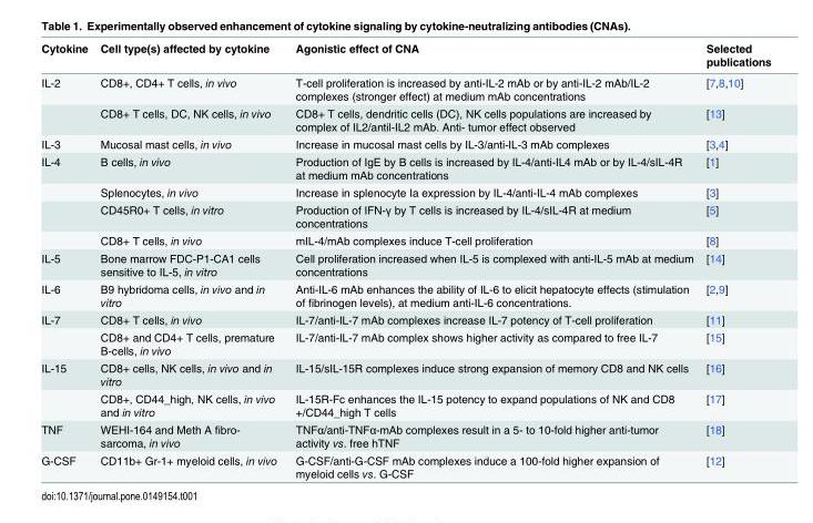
<table><thead><tr><td>Cytokine</td><td>Cell type(s) affected by cytokine</td><td>Agonistic effect of CNA</td><td>Selected publications</td></tr></thead><tbody><tr><td rowspan="2">IL-2</td><td>CD8+, CD4+ T cells, in vivo</td><td>T-cell proliferation is increased by anti-IL-2 mAb or by anti-IL-2 mAb/IL-2 complexes (stronger effect) at medium mAb concentrations</td><td>[7,8,10]</td></tr><tr><td>CD8+ T cells, DC, NK cells, in vivo</td><td>CD8+ T cells, dendritic cells (DC), NK cells populations are increased by complex of IL2/antil-IL2 mAb. Anti- tumor effect observed</td><td>[13]</td></tr><tr><td>IL-3</td><td>Mucosal mast cells, in vivo</td><td>Increase in mucosal mast cells by IL-3/anti-IL-3 mAb complexes</td><td>[3,4]</td></tr><tr><td rowspan="4">IL-4</td><td>B cells, in vivo</td><td>Production of IgE by B cells is increased by IL-4/anti-IL4 mAb or by IL-4/sIL-4R at medium mAb concentrations</td><td>[1]</td></tr><tr><td>Splenocytes, in vivo</td><td>Increase in splenocyte Ia expression by IL-4/anti-IL-4 mAb complexes</td><td>[3]</td></tr><tr><td>CD45R0+ T cells, in vitro</td><td>Production of IFN-γ by T cells is increased by IL-4/sIL-4R at medium concentrations</td><td>[5]</td></tr><tr><td>CD8+ T cells, in vivo</td><td>mIL-4/mAb complexes induce T-cell proliferation</td><td>[8]</td></tr><tr><td>IL-5</td><td>Bone marrow FDC-P1-CA1 cells sensitive to IL-5, in vitro</td><td>Cell proliferation increased when IL-5 is complexed with anti-IL-5 mAb at medium concentrations</td><td>[14]</td></tr><tr><td>IL-6</td><td>B9 hybridoma cells, in vivo and in vitro</td><td>Anti-IL-6 mAb enhances the ability of IL-6 to elicit hepatocyte effects (stimulation of fibrinogen levels), at medium anti-IL-6 concentrations.</td><td>[2,9]</td></tr><tr><td rowspan="2">IL-7</td><td>CD8+ T cells, in vivo</td><td>IL-7/anti-IL-7 mAb complexes increase IL-7 potency of T-cell proliferation</td><td>[11]</td></tr><tr><td>CD8+ and CD4+ T cells, premature B-cells, in vivo</td><td>IL-7/anti-IL-7 mAb complex shows higher activity as compared to free IL-7</td><td>[15]</td></tr><tr><td rowspan="2">IL-15</td><td>CD8+ cells, NK cells, in vivo and in vitro</td><td>IL-15/sIL-15R complexes induce strong expansion of memory CD8 and NK cells</td><td>[16]</td></tr><tr><td>CD8+, CD44_high, NK cells, in vivo and in vitro</td><td>IL-15R-Fc enhances the IL-15 potency to expand populations of NK and CD8 +/CD44_high T cells</td><td>[17]</td></tr><tr><td>TNF</td><td>WEHI-164 and Meth A fibro- sarcoma, in vivo</td><td>TNFα/anti-TNFα-mAb complexes result in a 5- to 10-fold higher anti-tumor activity vs. free hTNF</td><td>[18]</td></tr><tr><td>G-CSF</td><td>CD11b+ Gr-1+ myeloid cells, in vivo</td><td>G-CSF/anti-G-CSF mAb complexes induce a 100-fold higher expansion of myeloid cells vs. G-CSF</td><td>[12]</td></tr></tbody></table>